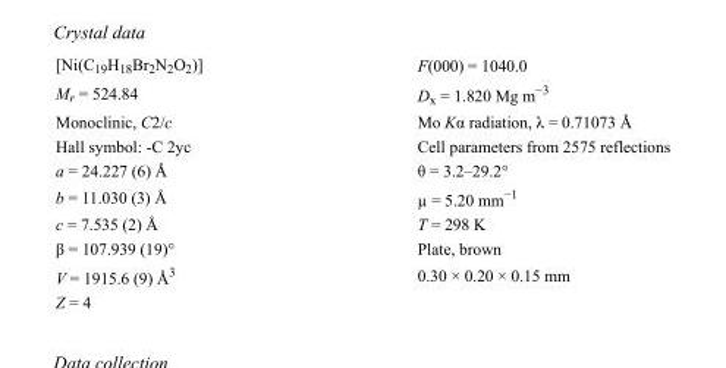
<table><tbody><tr><td>[Ni(C<sub>19</sub>H<sub>18</sub>Br<sub>2</sub>N<sub>2</sub>O<sub>2</sub>)]</td><td>F(000) = 1040.0</td></tr><tr><td>M<sub>r</sub> = 524.84</td><td>D<sub>x</sub> = 1.820 Mg m<sup>−3</sup></td></tr><tr><td>Monoclinic, C2/c</td><td>Mo Kα radiation, λ = 0.71073 Å</td></tr><tr><td>Hall symbol: -C 2yc</td><td>Cell parameters from 2575 reflections</td></tr><tr><td>a = 24.227 (6) Å</td><td>θ = 3.2–29.2°</td></tr><tr><td>b = 11.030 (3) Å</td><td>µ = 5.20 mm<sup>−1</sup></td></tr><tr><td>c = 7.535 (2) Å</td><td>T = 298 K</td></tr><tr><td>β = 107.939 (19)°</td><td>Plate, brown</td></tr><tr><td>V = 1915.6 (9) Å<sup>3</sup></td><td>0.30 × 0.20 × 0.15 mm</td></tr><tr><td>Z = 4</td><td></td></tr></tbody></table>